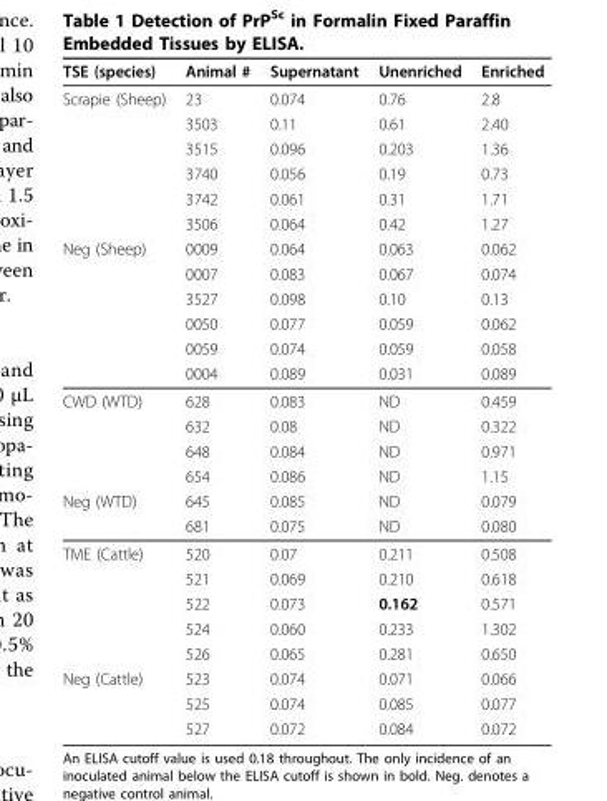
<table><thead><tr><td>TSE (species)</td><td>Animal #</td><td>Supernatant</td><td>Unenriched</td><td>Enriched</td></tr></thead><tbody><tr><td rowspan="6">Scrapie (Sheep)</td><td>23</td><td>0.074</td><td>0.76</td><td>2.8</td></tr><tr><td>3503</td><td>0.11</td><td>0.61</td><td>2.40</td></tr><tr><td>3515</td><td>0.096</td><td>0.203</td><td>1.36</td></tr><tr><td>3740</td><td>0.056</td><td>0.19</td><td>0.73</td></tr><tr><td>3742</td><td>0.061</td><td>0.31</td><td>1.71</td></tr><tr><td>3506</td><td>0.064</td><td>0.42</td><td>1.27</td></tr><tr><td rowspan="6">Neg (Sheep)</td><td>0009</td><td>0.064</td><td>0.063</td><td>0.062</td></tr><tr><td>0007</td><td>0.083</td><td>0.067</td><td>0.074</td></tr><tr><td>3527</td><td>0.098</td><td>0.10</td><td>0.13</td></tr><tr><td>0050</td><td>0.077</td><td>0.059</td><td>0.062</td></tr><tr><td>0059</td><td>0.074</td><td>0.059</td><td>0.058</td></tr><tr><td>0004</td><td>0.089</td><td>0.031</td><td>0.089</td></tr><tr><td rowspan="4">CWD (WTD)</td><td>628</td><td>0.083</td><td>ND</td><td>0.459</td></tr><tr><td>632</td><td>0.08</td><td>ND</td><td>0.322</td></tr><tr><td>648</td><td>0.084</td><td>ND</td><td>0.971</td></tr><tr><td>654</td><td>0.086</td><td>ND</td><td>1.15</td></tr><tr><td rowspan="2">Neg (WTD)</td><td>645</td><td>0.085</td><td>ND</td><td>0.079</td></tr><tr><td>681</td><td>0.075</td><td>ND</td><td>0.080</td></tr><tr><td rowspan="5">TME (Cattle)</td><td>520</td><td>0.07</td><td>0.211</td><td>0.508</td></tr><tr><td>521</td><td>0.069</td><td>0.210</td><td>0.618</td></tr><tr><td>522</td><td>0.073</td><td>0.162</td><td>0.571</td></tr><tr><td>524</td><td>0.060</td><td>0.233</td><td>1.302</td></tr><tr><td>526</td><td>0.065</td><td>0.281</td><td>0.650</td></tr><tr><td rowspan="3">Neg (Cattle)</td><td>523</td><td>0.074</td><td>0.071</td><td>0.066</td></tr><tr><td>525</td><td>0.074</td><td>0.085</td><td>0.077</td></tr><tr><td>527</td><td>0.072</td><td>0.084</td><td>0.072</td></tr></tbody></table>